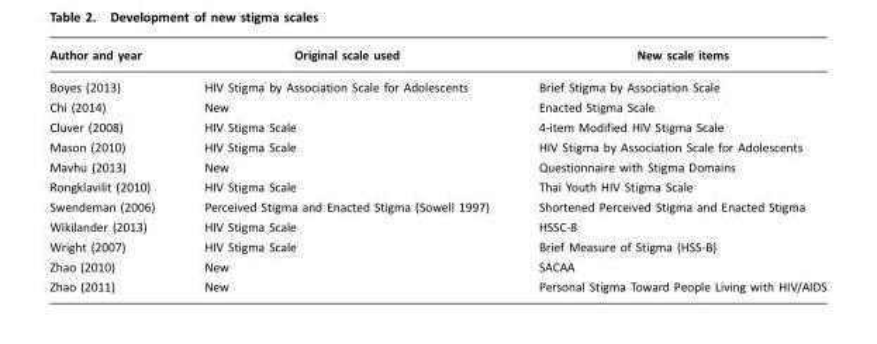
<table><thead><tr><td>Author and year</td><td>Original scale used</td><td>New scale items</td></tr></thead><tbody><tr><td>Boyes (2013)</td><td>HIV Stigma by Association Scale for Adolescents</td><td>Brief Stigma by Association Scale</td></tr><tr><td>Chi (2014)</td><td>New</td><td>Enacted Stigma Scale</td></tr><tr><td>Cluver (2008)</td><td>HIV Stigma Scale</td><td>4-item Modified HIV Stigma Scale</td></tr><tr><td>Mason (2010)</td><td>HIV Stigma Scale</td><td>HIV Stigma by Association Scale for Adolescents</td></tr><tr><td>Mavhu (2013)</td><td>New</td><td>Questionnaire with Stigma Domains</td></tr><tr><td>Rongklavilit (2010)</td><td>HIV Stigma Scale</td><td>Thai Youth HIV Stigma Scale</td></tr><tr><td>Swendeman (2006)</td><td>Perceived Stigma and Enacted Stigma (Sowell 1997)</td><td>Shortened Perceived Stigma and Enacted Stigma</td></tr><tr><td>Wikilander (2013)</td><td>HIV Stigma Scale</td><td>HSSC-8</td></tr><tr><td>Wright (2007)</td><td>HIV Stigma Scale</td><td>Brief Measure of Stigma (HSS-B)</td></tr><tr><td>Zhao (2010)</td><td>New</td><td>SACAA</td></tr><tr><td>Zhao (2011)</td><td>New</td><td>Personal Stigma Toward People Living with HIV/AIDS</td></tr></tbody></table>